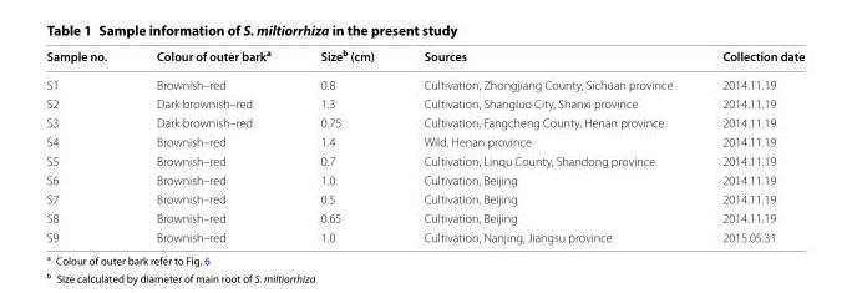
<table><thead><tr><td>Sample no.</td><td>Colour of outer bark<sup>a</sup></td><td>Size<sup>b</sup> (cm)</td><td>Sources</td><td>Collection date</td></tr></thead><tbody><tr><td>S1</td><td>Brownish–red</td><td>0.8</td><td>Cultivation, Zhongjiang County, Sichuan province</td><td>2014.11.19</td></tr><tr><td>S2</td><td>Dark brownish–red</td><td>1.3</td><td>Cultivation, Shangluo City, Shanxi province</td><td>2014.11.19</td></tr><tr><td>S3</td><td>Dark brownish–red</td><td>0.75</td><td>Cultivation, Fangcheng County, Henan province</td><td>2014.11.19</td></tr><tr><td>S4</td><td>Brownish–red</td><td>1.4</td><td>Wild, Henan province</td><td>2014.11.19</td></tr><tr><td>S5</td><td>Brownish–red</td><td>0.7</td><td>Cultivation, Linqu County, Shandong province</td><td>2014.11.19</td></tr><tr><td>S6</td><td>Brownish–red</td><td>1.0</td><td>Cultivation, Beijing</td><td>2014.11.19</td></tr><tr><td>S7</td><td>Brownish–red</td><td>0.5</td><td>Cultivation, Beijing</td><td>2014.11.19</td></tr><tr><td>S8</td><td>Brownish–red</td><td>0.65</td><td>Cultivation, Beijing</td><td>2014.11.19</td></tr><tr><td>S9</td><td>Brownish–red</td><td>1.0</td><td>Cultivation, Nanjing, Jiangsu province</td><td>2015.05.31</td></tr></tbody></table>